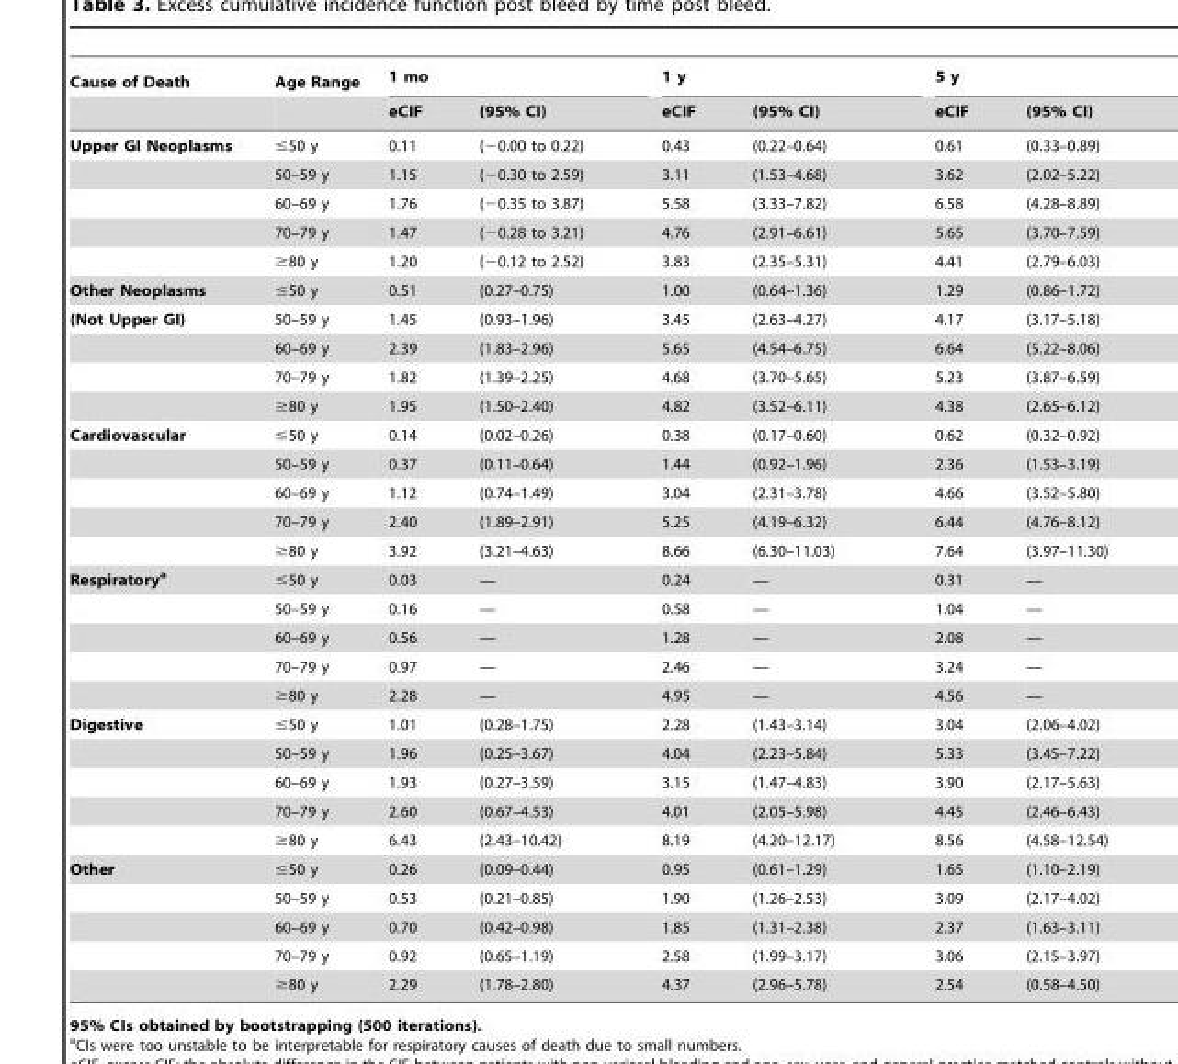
<table><thead><tr><td rowspan="2">Cause of Death</td><td rowspan="2">Age Range</td><td colspan="2">1 mo</td><td colspan="2">1 y</td><td colspan="2">5 y</td></tr><tr><td>eCIF</td><td>(95% CI)</td><td>eCIF</td><td>(95% CI)</td><td>eCIF</td><td>(95% CI)</td></tr></thead><tbody><tr><td rowspan="5">Upper GI Neoplasms</td><td>≤50 y</td><td>0.11</td><td>(−0.00 to 0.22)</td><td>0.43</td><td>(0.22–0.64)</td><td>0.61</td><td>(0.33–0.89)</td></tr><tr><td>50–59 y</td><td>1.15</td><td>(−0.30 to 2.59)</td><td>3.11</td><td>(1.53–4.68)</td><td>3.62</td><td>(2.02–5.22)</td></tr><tr><td>60–69 y</td><td>1.76</td><td>(−0.35 to 3.87)</td><td>5.58</td><td>(3.33–7.82)</td><td>6.58</td><td>(4.28–8.89)</td></tr><tr><td>70–79 y</td><td>1.47</td><td>(−0.28 to 3.21)</td><td>4.76</td><td>(2.91–6.61)</td><td>5.65</td><td>(3.70–7.59)</td></tr><tr><td>≥80 y</td><td>1.20</td><td>(−0.12 to 2.52)</td><td>3.83</td><td>(2.35–5.31)</td><td>4.41</td><td>(2.79–6.03)</td></tr><tr><td>Other Neoplasms</td><td>≤50 y</td><td>0.51</td><td>(0.27–0.75)</td><td>1.00</td><td>(0.64–1.36)</td><td>1.29</td><td>(0.86–1.72)</td></tr><tr><td rowspan="4">(Not Upper GI)</td><td>50–59 y</td><td>1.45</td><td>(0.93–1.96)</td><td>3.45</td><td>(2.63–4.27)</td><td>4.17</td><td>(3.17–5.18)</td></tr><tr><td>60–69 y</td><td>2.39</td><td>(1.83–2.96)</td><td>5.65</td><td>(4.54–6.75)</td><td>6.64</td><td>(5.22–8.06)</td></tr><tr><td>70–79 y</td><td>1.82</td><td>(1.39–2.25)</td><td>4.68</td><td>(3.70–5.65)</td><td>5.23</td><td>(3.87–6.59)</td></tr><tr><td>≥80 y</td><td>1.95</td><td>(1.50–2.40)</td><td>4.82</td><td>(3.52–6.11)</td><td>4.38</td><td>(2.65–6.12)</td></tr><tr><td rowspan="5">Cardiovascular</td><td>≤50 y</td><td>0.14</td><td>(0.02–0.26)</td><td>0.38</td><td>(0.17–0.60)</td><td>0.62</td><td>(0.32–0.92)</td></tr><tr><td>50–59 y</td><td>0.37</td><td>(0.11–0.64)</td><td>1.44</td><td>(0.92–1.96)</td><td>2.36</td><td>(1.53–3.19)</td></tr><tr><td>60–69 y</td><td>1.12</td><td>(0.74–1.49)</td><td>3.04</td><td>(2.31–3.78)</td><td>4.66</td><td>(3.52–5.80)</td></tr><tr><td>70–79 y</td><td>2.40</td><td>(1.89–2.91)</td><td>5.25</td><td>(4.19–6.32)</td><td>6.44</td><td>(4.76–8.12)</td></tr><tr><td>≥80 y</td><td>3.92</td><td>(3.21–4.63)</td><td>8.66</td><td>(6.30–11.03)</td><td>7.64</td><td>(3.97–11.30)</td></tr><tr><td rowspan="5">Respiratorya</td><td>≤50 y</td><td>0.03</td><td>—</td><td>0.24</td><td>—</td><td>0.31</td><td>—</td></tr><tr><td>50–59 y</td><td>0.16</td><td>—</td><td>0.58</td><td>—</td><td>1.04</td><td>—</td></tr><tr><td>60–69 y</td><td>0.56</td><td>—</td><td>1.28</td><td>—</td><td>2.08</td><td>—</td></tr><tr><td>70–79 y</td><td>0.97</td><td>—</td><td>2.46</td><td>—</td><td>3.24</td><td>—</td></tr><tr><td>≥80 y</td><td>2.28</td><td>—</td><td>4.95</td><td>—</td><td>4.56</td><td>—</td></tr><tr><td rowspan="5">Digestive</td><td>≤50 y</td><td>1.01</td><td>(0.28–1.75)</td><td>2.28</td><td>(1.43–3.14)</td><td>3.04</td><td>(2.06–4.02)</td></tr><tr><td>50–59 y</td><td>1.96</td><td>(0.25–3.67)</td><td>4.04</td><td>(2.23–5.84)</td><td>5.33</td><td>(3.45–7.22)</td></tr><tr><td>60–69 y</td><td>1.93</td><td>(0.27–3.59)</td><td>3.15</td><td>(1.47–4.83)</td><td>3.90</td><td>(2.17–5.63)</td></tr><tr><td>70–79 y</td><td>2.60</td><td>(0.67–4.53)</td><td>4.01</td><td>(2.05–5.98)</td><td>4.45</td><td>(2.46–6.43)</td></tr><tr><td>≥80 y</td><td>6.43</td><td>(2.43–10.42)</td><td>8.19</td><td>(4.20–12.17)</td><td>8.56</td><td>(4.58–12.54)</td></tr><tr><td rowspan="5">Other</td><td>≤50 y</td><td>0.26</td><td>(0.09–0.44)</td><td>0.95</td><td>(0.61–1.29)</td><td>1.65</td><td>(1.10–2.19)</td></tr><tr><td>50–59 y</td><td>0.53</td><td>(0.21–0.85)</td><td>1.90</td><td>(1.26–2.53)</td><td>3.09</td><td>(2.17–4.02)</td></tr><tr><td>60–69 y</td><td>0.70</td><td>(0.42–0.98)</td><td>1.85</td><td>(1.31–2.38)</td><td>2.37</td><td>(1.63–3.11)</td></tr><tr><td>70–79 y</td><td>0.92</td><td>(0.65–1.19)</td><td>2.58</td><td>(1.99–3.17)</td><td>3.06</td><td>(2.15–3.97)</td></tr><tr><td>≥80 y</td><td>2.29</td><td>(1.78–2.80)</td><td>4.37</td><td>(2.96–5.78)</td><td>2.54</td><td>(0.58–4.50)</td></tr></tbody></table>